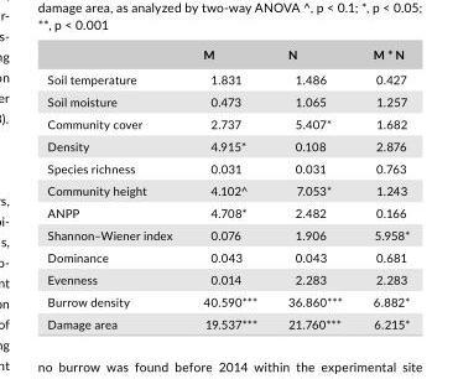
<table><thead><tr><td></td><td>M</td><td>N</td><td>M * N</td></tr></thead><tbody><tr><td>Soil temperature</td><td>1.831</td><td>1.486</td><td>0.427</td></tr><tr><td>Soil moisture</td><td>0.473</td><td>1.065</td><td>1.257</td></tr><tr><td>Community cover</td><td>2.737</td><td>5.407*</td><td>1.682</td></tr><tr><td>Density</td><td>4.915*</td><td>0.108</td><td>2.876</td></tr><tr><td>Species richness</td><td>0.031</td><td>0.031</td><td>0.763</td></tr><tr><td>Community height</td><td>4.102^</td><td>7.053*</td><td>1.243</td></tr><tr><td>ANPP</td><td>4.708*</td><td>2.482</td><td>0.166</td></tr><tr><td>Shannon–Wiener index</td><td>0.076</td><td>1.906</td><td>5.958*</td></tr><tr><td>Dominance</td><td>0.043</td><td>0.043</td><td>0.681</td></tr><tr><td>Evenness</td><td>0.014</td><td>2.283</td><td>2.283</td></tr><tr><td>Burrow density</td><td>40.590***</td><td>36.860***</td><td>6.882*</td></tr><tr><td>Damage area</td><td>19.537***</td><td>21.760***</td><td>6.215*</td></tr></tbody></table>